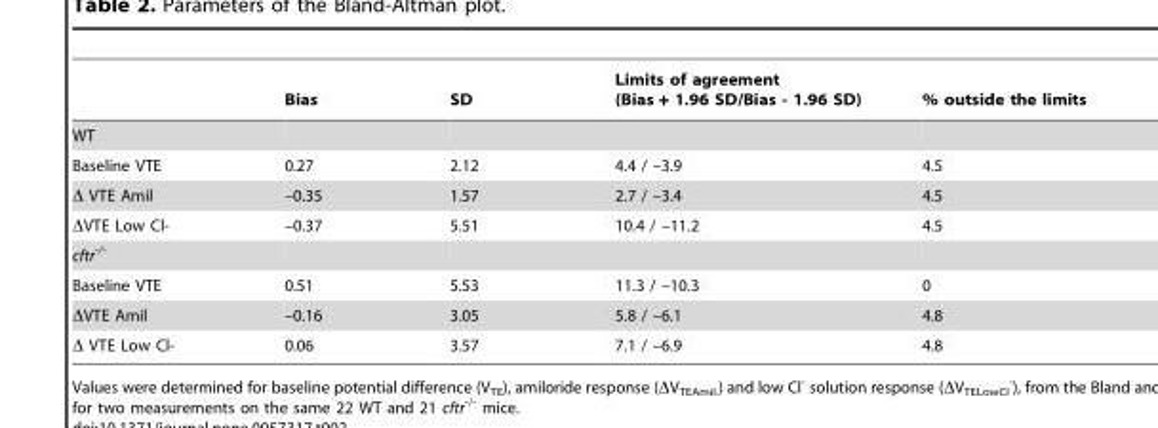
<table><thead><tr><td></td><td>Bias</td><td>SD</td><td>Limits of agreement (Bias + 1.96 SD/Bias - 1.96 SD)</td><td>% outside the limits</td></tr></thead><tbody><tr><td colspan="5">WT</td></tr><tr><td>Baseline VTE</td><td>0.27</td><td>2.12</td><td>4.4 / –3.9</td><td>4.5</td></tr><tr><td>Δ VTE Amil</td><td>–0.35</td><td>1.57</td><td>2.7 / –3.4</td><td>4.5</td></tr><tr><td>ΔVTE Low Cl-</td><td>–0.37</td><td>5.51</td><td>10.4 / –11.2</td><td>4.5</td></tr><tr><td colspan="5">cftr<sup>-/-</sup></td></tr><tr><td>Baseline VTE</td><td>0.51</td><td>5.53</td><td>11.3 / –10.3</td><td>0</td></tr><tr><td>ΔVTE Amil</td><td>–0.16</td><td>3.05</td><td>5.8 / –6.1</td><td>4.8</td></tr><tr><td>Δ VTE Low Cl-</td><td>0.06</td><td>3.57</td><td>7.1 / –6.9</td><td>4.8</td></tr></tbody></table>